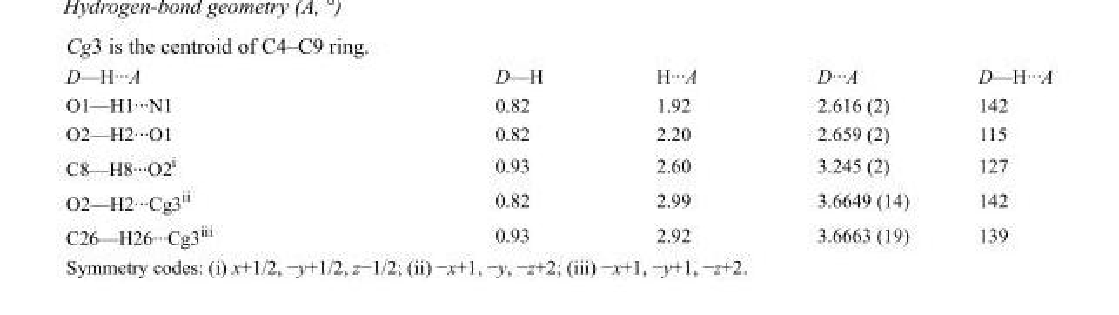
<table><tbody><tr><td>D—H···A</td><td>D—H</td><td>H···A</td><td>D···A</td><td>D—H···A</td></tr><tr><td>O1—H1···N1</td><td>0.82</td><td>1.92</td><td>2.616 (2)</td><td>142</td></tr><tr><td>O2—H2···O1</td><td>0.82</td><td>2.20</td><td>2.659 (2)</td><td>115</td></tr><tr><td>C8—H8···O2<sup>i</sup></td><td>0.93</td><td>2.60</td><td>3.245 (2)</td><td>127</td></tr><tr><td>O2—H2···Cg3<sup>ii</sup></td><td>0.82</td><td>2.99</td><td>3.6649 (14)</td><td>142</td></tr><tr><td>C26—H26···Cg3<sup>iii</sup></td><td>0.93</td><td>2.92</td><td>3.6663 (19)</td><td>139</td></tr></tbody></table>